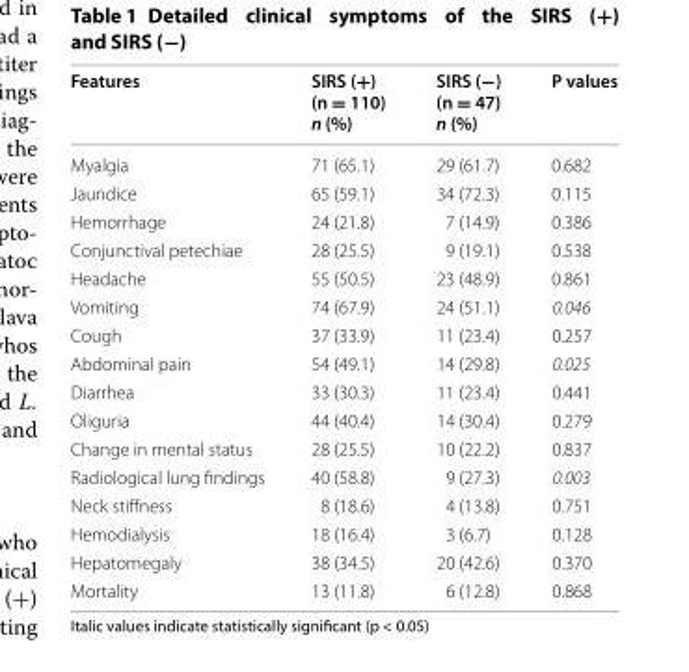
<table><thead><tr><td>Features</td><td>SIRS (+) (n = 110) n (%)</td><td>SIRS (−) (n = 47) n (%)</td><td>P values</td></tr></thead><tbody><tr><td>Myalgia</td><td>71 (65.1)</td><td>29 (61.7)</td><td>0.682</td></tr><tr><td>Jaundice</td><td>65 (59.1)</td><td>34 (72.3)</td><td>0.115</td></tr><tr><td>Hemorrhage</td><td>24 (21.8)</td><td>7 (14.9)</td><td>0.386</td></tr><tr><td>Conjunctival petechiae</td><td>28 (25.5)</td><td>9 (19.1)</td><td>0.538</td></tr><tr><td>Headache</td><td>55 (50.5)</td><td>23 (48.9)</td><td>0.861</td></tr><tr><td>Vomiting</td><td>74 (67.9)</td><td>24 (51.1)</td><td>0.046</td></tr><tr><td>Cough</td><td>37 (33.9)</td><td>11 (23.4)</td><td>0.257</td></tr><tr><td>Abdominal pain</td><td>54 (49.1)</td><td>14 (29.8)</td><td>0.025</td></tr><tr><td>Diarrhea</td><td>33 (30.3)</td><td>11 (23.4)</td><td>0.441</td></tr><tr><td>Oliguria</td><td>44 (40.4)</td><td>14 (30.4)</td><td>0.279</td></tr><tr><td>Change in mental status</td><td>28 (25.5)</td><td>10 (22.2)</td><td>0.837</td></tr><tr><td>Radiological lung findings</td><td>40 (58.8)</td><td>9 (27.3)</td><td>0.003</td></tr><tr><td>Neck stiffness</td><td>8 (18.6)</td><td>4 (13.8)</td><td>0.751</td></tr><tr><td>Hemodialysis</td><td>18 (16.4)</td><td>3 (6.7)</td><td>0.128</td></tr><tr><td>Hepatomegaly</td><td>38 (34.5)</td><td>20 (42.6)</td><td>0.370</td></tr><tr><td>Mortality</td><td>13 (11.8)</td><td>6 (12.8)</td><td>0.868</td></tr></tbody></table>